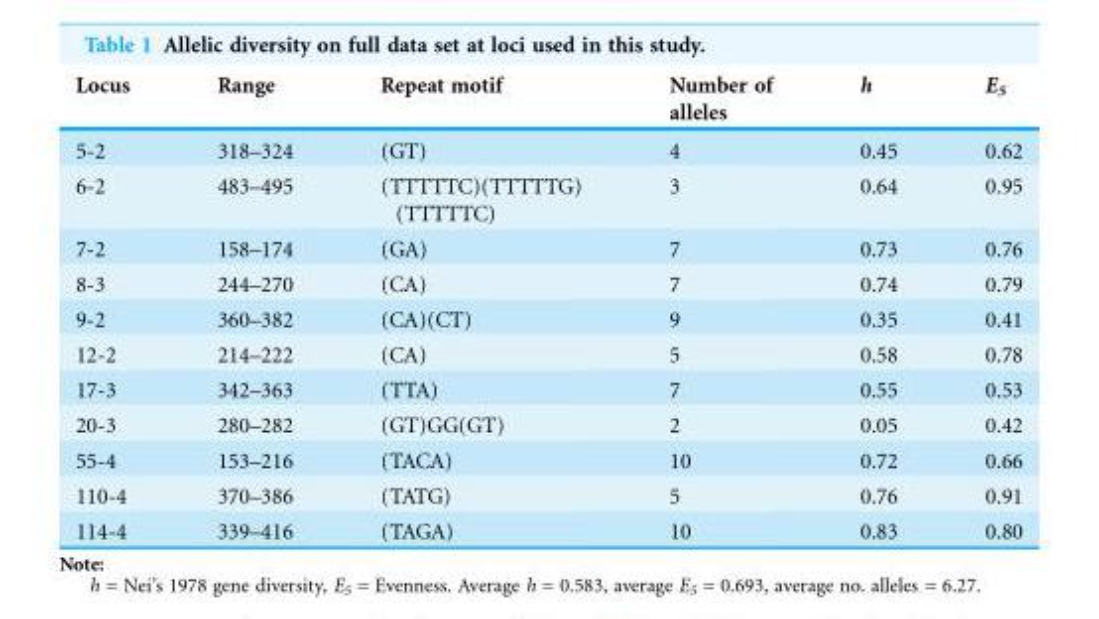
<table><thead><tr><td>Locus</td><td>Range</td><td>Repeat motif</td><td>Number of alleles</td><td>h</td><td>E<sub>5</sub></td></tr></thead><tbody><tr><td>5-2</td><td>318–324</td><td>(GT)</td><td>4</td><td>0.45</td><td>0.62</td></tr><tr><td>6-2</td><td>483–495</td><td>(TTTTTC)(TTTTTG) (TTTTTC)</td><td>3</td><td>0.64</td><td>0.95</td></tr><tr><td>7-2</td><td>158–174</td><td>(GA)</td><td>7</td><td>0.73</td><td>0.76</td></tr><tr><td>8-3</td><td>244–270</td><td>(CA)</td><td>7</td><td>0.74</td><td>0.79</td></tr><tr><td>9-2</td><td>360–382</td><td>(CA)(CT)</td><td>9</td><td>0.35</td><td>0.41</td></tr><tr><td>12-2</td><td>214–222</td><td>(CA)</td><td>5</td><td>0.58</td><td>0.78</td></tr><tr><td>17-3</td><td>342–363</td><td>(TTA)</td><td>7</td><td>0.55</td><td>0.53</td></tr><tr><td>20-3</td><td>280–282</td><td>(GT)GG(GT)</td><td>2</td><td>0.05</td><td>0.42</td></tr><tr><td>55-4</td><td>153–216</td><td>(TACA)</td><td>10</td><td>0.72</td><td>0.66</td></tr><tr><td>110-4</td><td>370–386</td><td>(TATG)</td><td>5</td><td>0.76</td><td>0.91</td></tr><tr><td>114-4</td><td>339–416</td><td>(TAGA)</td><td>10</td><td>0.83</td><td>0.80</td></tr></tbody></table>